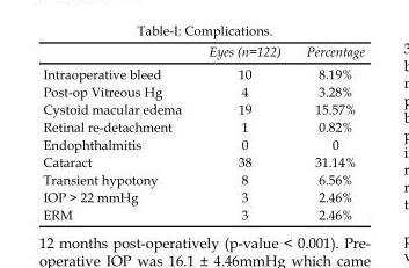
<table><thead><tr><td></td><td>Eyes (n=122)</td><td>Percentage</td></tr></thead><tbody><tr><td>Intraoperative bleed</td><td>10</td><td>8.19%</td></tr><tr><td>Post-op Vitreous Hg</td><td>4</td><td>3.28%</td></tr><tr><td>Cystoid macular edema</td><td>19</td><td>15.57%</td></tr><tr><td>Retinal re-detachment</td><td>1</td><td>0.82%</td></tr><tr><td>Endophthalmitis</td><td>0</td><td>0</td></tr><tr><td>Cataract</td><td>38</td><td>31.14%</td></tr><tr><td>Transient hypotony</td><td>8</td><td>6.56%</td></tr><tr><td>IOP &gt; 22 mmHg</td><td>3</td><td>2.46%</td></tr><tr><td>ERM</td><td>3</td><td>2.46%</td></tr></tbody></table>